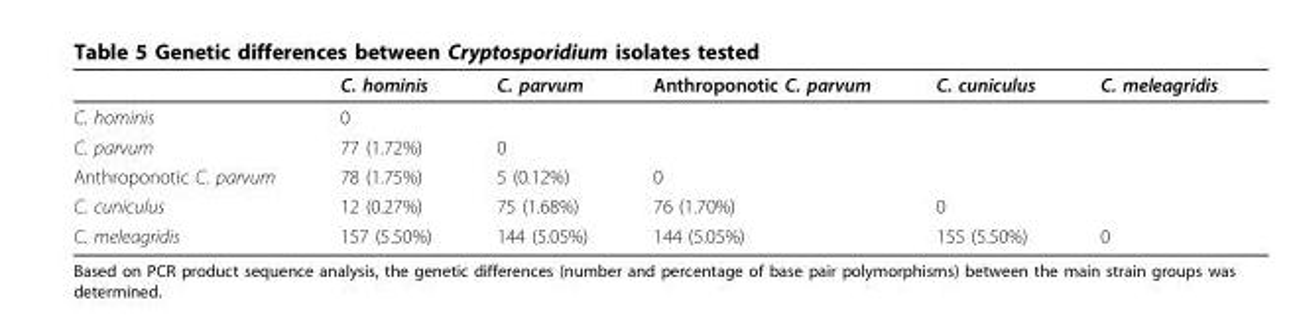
<table><thead><tr><td></td><td>C. hominis</td><td>C. parvum</td><td>Anthroponotic C. parvum</td><td>C. cuniculus</td><td>C. meleagridis</td></tr></thead><tbody><tr><td>C. hominis</td><td>0</td><td></td><td></td><td></td><td></td></tr><tr><td>C. parvum</td><td>77 (1.72%)</td><td>0</td><td></td><td></td><td></td></tr><tr><td>Anthroponotic C. parvum</td><td>78 (1.75%)</td><td>5 (0.12%)</td><td>0</td><td></td><td></td></tr><tr><td>C. cuniculus</td><td>12 (0.27%)</td><td>75 (1.68%)</td><td>76 (1.70%)</td><td>0</td><td></td></tr><tr><td>C. meleagridis</td><td>157 (5.50%)</td><td>144 (5.05%)</td><td>144 (5.05%)</td><td>155 (5.50%)</td><td>0</td></tr></tbody></table>